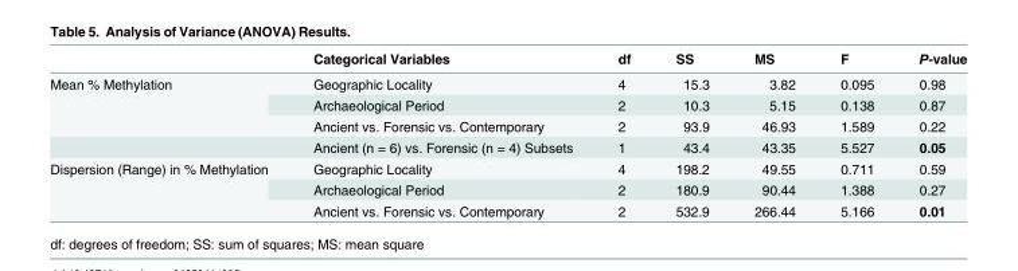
<table><thead><tr><td></td><td>Categorical Variables</td><td>df</td><td>SS</td><td>MS</td><td>F</td><td>P-value</td></tr></thead><tbody><tr><td rowspan="4">Mean % Methylation</td><td>Geographic Locality</td><td>4</td><td>15.3</td><td>3.82</td><td>0.095</td><td>0.98</td></tr><tr><td>Archaeological Period</td><td>2</td><td>10.3</td><td>5.15</td><td>0.138</td><td>0.87</td></tr><tr><td>Ancient vs. Forensic vs. Contemporary</td><td>2</td><td>93.9</td><td>46.93</td><td>1.589</td><td>0.22</td></tr><tr><td>Ancient (n = 6) vs. Forensic (n = 4) Subsets</td><td>1</td><td>43.4</td><td>43.35</td><td>5.527</td><td>0.05</td></tr><tr><td rowspan="3">Dispersion (Range) in % Methylation</td><td>Geographic Locality</td><td>4</td><td>198.2</td><td>49.55</td><td>0.711</td><td>0.59</td></tr><tr><td>Archaeological Period</td><td>2</td><td>180.9</td><td>90.44</td><td>1.388</td><td>0.27</td></tr><tr><td>Ancient vs. Forensic vs. Contemporary</td><td>2</td><td>532.9</td><td>266.44</td><td>5.166</td><td>0.01</td></tr></tbody></table>